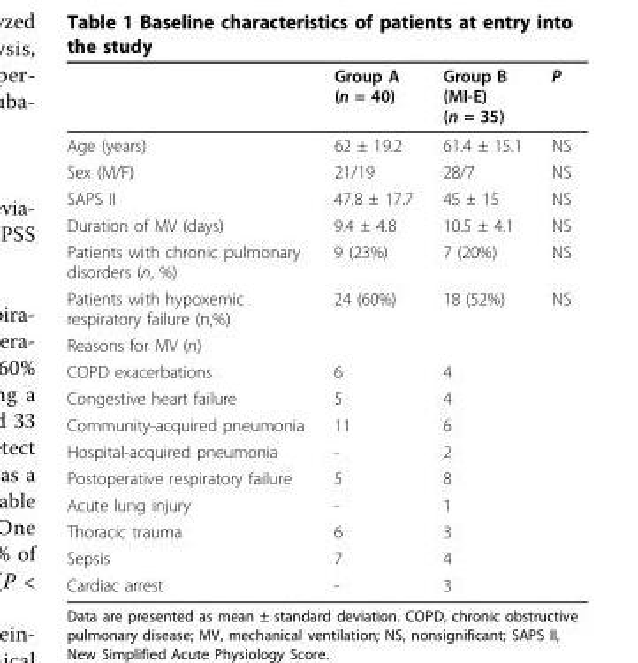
<table><thead><tr><td></td><td>Group A (n = 40)</td><td>Group B (MI-E) (n = 35)</td><td>P</td></tr></thead><tbody><tr><td>Age (years)</td><td>62 ± 19.2</td><td>61.4 ± 15.1</td><td>NS</td></tr><tr><td>Sex (M/F)</td><td>21/19</td><td>28/7</td><td>NS</td></tr><tr><td>SAPS II</td><td>47.8 ± 17.7</td><td>45 ± 15</td><td>NS</td></tr><tr><td>Duration of MV (days)</td><td>9.4 ± 4.8</td><td>10.5 ± 4.1</td><td>NS</td></tr><tr><td>Patients with chronic pulmonary disorders (n, %)</td><td>9 (23%)</td><td>7 (20%)</td><td>NS</td></tr><tr><td>Patients with hypoxemic respiratory failure (n,%)</td><td>24 (60%)</td><td>18 (52%)</td><td>NS</td></tr><tr><td colspan="4">Reasons for MV (n)</td></tr><tr><td>COPD exacerbations</td><td>6</td><td>4</td><td></td></tr><tr><td>Congestive heart failure</td><td>5</td><td>4</td><td></td></tr><tr><td>Community-acquired pneumonia</td><td>11</td><td>6</td><td></td></tr><tr><td>Hospital-acquired pneumonia</td><td>-</td><td>2</td><td></td></tr><tr><td>Postoperative respiratory failure</td><td>5</td><td>8</td><td></td></tr><tr><td>Acute lung injury</td><td>-</td><td>1</td><td></td></tr><tr><td>Thoracic trauma</td><td>6</td><td>3</td><td></td></tr><tr><td>Sepsis</td><td>7</td><td>4</td><td></td></tr><tr><td>Cardiac arrest</td><td>-</td><td>3</td><td></td></tr></tbody></table>